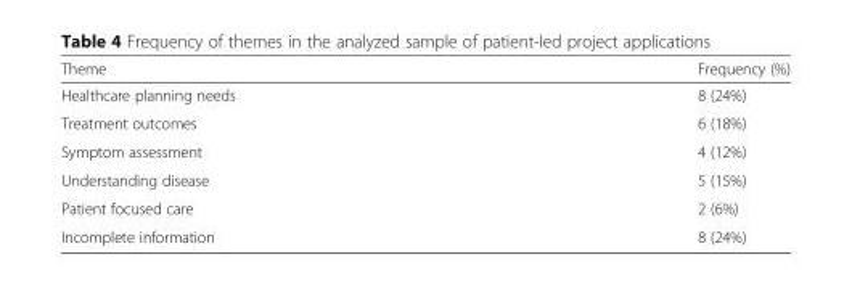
<table><thead><tr><td>Theme</td><td>Frequency (%)</td></tr></thead><tbody><tr><td>Healthcare planning needs</td><td>8 (24%)</td></tr><tr><td>Treatment outcomes</td><td>6 (18%)</td></tr><tr><td>Symptom assessment</td><td>4 (12%)</td></tr><tr><td>Understanding disease</td><td>5 (15%)</td></tr><tr><td>Patient focused care</td><td>2 (6%)</td></tr><tr><td>Incomplete information</td><td>8 (24%)</td></tr></tbody></table>